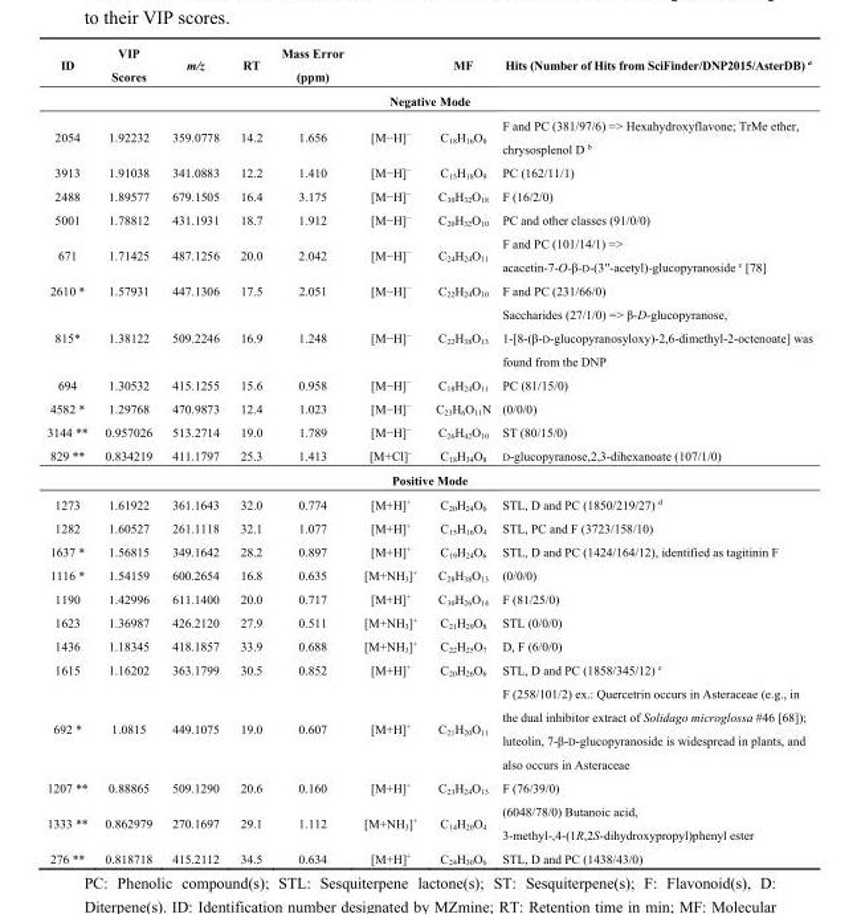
<table><thead><tr><td>ID</td><td>VIP Scores</td><td>m/z</td><td>RT</td><td>Mass Error (ppm)</td><td></td><td>MF</td><td>Hits (Number of Hits from SciFinder/DNP2015/AsterDB) <sup>a</sup></td></tr></thead><tbody><tr><td colspan="8">Negative Mode</td></tr><tr><td>2054</td><td>1.92232</td><td>359.0778</td><td>14.2</td><td>1.656</td><td>[M−H]<sup>−</sup></td><td>C<sub>18</sub>H<sub>16</sub>O<sub>8</sub></td><td>F and PC (381/97/6) =&gt; Hexahydroxyflavone; TrMe ether, chrysosplenol D <sup>b</sup></td></tr><tr><td>3913</td><td>1.91038</td><td>341.0883</td><td>12.2</td><td>1.410</td><td>[M−H]<sup>−</sup></td><td>C<sub>15</sub>H<sub>18</sub>O<sub>9</sub></td><td>PC (162/11/1)</td></tr><tr><td>2488</td><td>1.89577</td><td>679.1505</td><td>16.4</td><td>3.175</td><td>[M−H]<sup>−</sup></td><td>C<sub>30</sub>H<sub>32</sub>O<sub>18</sub></td><td>F (16/2/0)</td></tr><tr><td>5001</td><td>1.78812</td><td>431.1931</td><td>18.7</td><td>1.912</td><td>[M−H]<sup>−</sup></td><td>C<sub>20</sub>H<sub>32</sub>O<sub>10</sub></td><td>PC and other classes (91/0/0)</td></tr><tr><td>671</td><td>1.71425</td><td>487.1256</td><td>20.0</td><td>2.042</td><td>[M−H]<sup>−</sup></td><td>C<sub>24</sub>H<sub>24</sub>O<sub>11</sub></td><td>F and PC (101/14/1) =&gt; acacetin-7-O-β-D-(3′′-acetyl)-glucopyranoside <sup>c</sup> [78]</td></tr><tr><td>2610 *</td><td>1.57931</td><td>447.1306</td><td>17.5</td><td>2.051</td><td>[M−H]<sup>−</sup></td><td>C<sub>22</sub>H<sub>24</sub>O<sub>10</sub></td><td>F and PC (231/66/0)</td></tr><tr><td>815*</td><td>1.38122</td><td>509.2246</td><td>16.9</td><td>1.248</td><td>[M−H]<sup>−</sup></td><td>C<sub>22</sub>H<sub>38</sub>O<sub>13</sub></td><td>Saccharides (27/1/0) =&gt; β-D-glucopyranose, 1-[8-(β-D-glucopyranosyloxy)-2,6-dimethyl-2-octenoate] was found from the DNP</td></tr><tr><td>694</td><td>1.30532</td><td>415.1255</td><td>15.6</td><td>0.958</td><td>[M−H]<sup>−</sup></td><td>C<sub>18</sub>H<sub>24</sub>O<sub>11</sub></td><td>PC (81/15/0)</td></tr><tr><td>4582 *</td><td>1.29768</td><td>470.9873</td><td>12.4</td><td>1.023</td><td>[M−H]<sup>−</sup></td><td>C<sub>23</sub>H<sub>6</sub>O<sub>11</sub>N</td><td>(0/0/0)</td></tr><tr><td>3144 **</td><td>0.957026</td><td>513.2714</td><td>19.0</td><td>1.789</td><td>[M−H]<sup>−</sup></td><td>C<sub>26</sub>H<sub>42</sub>O<sub>10</sub></td><td>ST (80/15/0)</td></tr><tr><td>829 **</td><td>0.834219</td><td>411.1797</td><td>25.3</td><td>1.413</td><td>[M+Cl]<sup>−</sup></td><td>C<sub>18</sub>H<sub>34</sub>O<sub>8</sub></td><td>D-glucopyranose,2,3-dihexanoate (107/1/0)</td></tr><tr><td colspan="8">Positive Mode</td></tr><tr><td>1273</td><td>1.61922</td><td>361.1643</td><td>32.0</td><td>0.774</td><td>[M+H]<sup>+</sup></td><td>C<sub>20</sub>H<sub>24</sub>O<sub>6</sub></td><td>STL, D and PC (1850/219/27) <sup>d</sup></td></tr><tr><td>1282</td><td>1.60527</td><td>261.1118</td><td>32.1</td><td>1.077</td><td>[M+H]<sup>+</sup></td><td>C<sub>15</sub>H<sub>16</sub>O<sub>4</sub></td><td>STL, PC and F (3723/158/10)</td></tr><tr><td>1637 *</td><td>1.56815</td><td>349.1642</td><td>28.2</td><td>0.897</td><td>[M+H]<sup>+</sup></td><td>C<sub>19</sub>H<sub>24</sub>O<sub>6</sub></td><td>STL, D and PC (1424/164/12), identified as tagitinin F</td></tr><tr><td>1116 *</td><td>1.54159</td><td>600.2654</td><td>16.8</td><td>0.635</td><td>[M+NH<sub>3</sub>]<sup>+</sup></td><td>C<sub>28</sub>H<sub>38</sub>O<sub>13</sub></td><td>(0/0/0)</td></tr><tr><td>1190</td><td>1.42996</td><td>611.1400</td><td>20.0</td><td>0.717</td><td>[M+H]<sup>+</sup></td><td>C<sub>30</sub>H<sub>26</sub>O<sub>14</sub></td><td>F (81/25/0)</td></tr><tr><td>1623</td><td>1.36987</td><td>426.2120</td><td>27.9</td><td>0.511</td><td>[M+NH<sub>3</sub>]<sup>+</sup></td><td>C<sub>21</sub>H<sub>29</sub>O<sub>8</sub></td><td>STL (0/0/0)</td></tr><tr><td>1436</td><td>1.18345</td><td>418.1857</td><td>33.9</td><td>0.688</td><td>[M+NH<sub>3</sub>]<sup>+</sup></td><td>C<sub>22</sub>H<sub>25</sub>O<sub>7</sub></td><td>D, F (6/0/0)</td></tr><tr><td>1615</td><td>1.16202</td><td>363.1799</td><td>30.5</td><td>0.852</td><td>[M+H]<sup>+</sup></td><td>C<sub>20</sub>H<sub>26</sub>O<sub>6</sub></td><td>STL, D and PC (1858/345/12) <sup>e</sup></td></tr><tr><td>692 *</td><td>1.0815</td><td>449.1075</td><td>19.0</td><td>0.607</td><td>[M+H]<sup>+</sup></td><td>C<sub>21</sub>H<sub>20</sub>O<sub>11</sub></td><td>F (258/101/2) ex.: Quercetrin occurs in Asteraceae (e.g., in the dual inhibitor extract of Solidago microglossa #46 [68]); luteolin, 7-β-D-glucopyranoside is widespread in plants, and also occurs in Asteraceae</td></tr><tr><td>1207 **</td><td>0.88865</td><td>509.1290</td><td>20.6</td><td>0.160</td><td>[M+H]<sup>+</sup></td><td>C<sub>23</sub>H<sub>24</sub>O<sub>13</sub></td><td>F (76/39/0)</td></tr><tr><td>1333 **</td><td>0.862979</td><td>270.1697</td><td>29.1</td><td>1.112</td><td>[M+NH<sub>3</sub>]<sup>+</sup></td><td>C<sub>14</sub>H<sub>20</sub>O<sub>4</sub></td><td>(6048/78/0) Butanoic acid, 3-methyl-,4-(1R,2S-dihydroxypropyl)phenyl ester</td></tr><tr><td>276 **</td><td>0.818718</td><td>415.2112</td><td>34.5</td><td>0.634</td><td>[M+H]<sup>+</sup></td><td>C<sub>24</sub>H<sub>30</sub>O<sub>6</sub></td><td>STL, D and PC (1438/43/0)</td></tr></tbody></table>